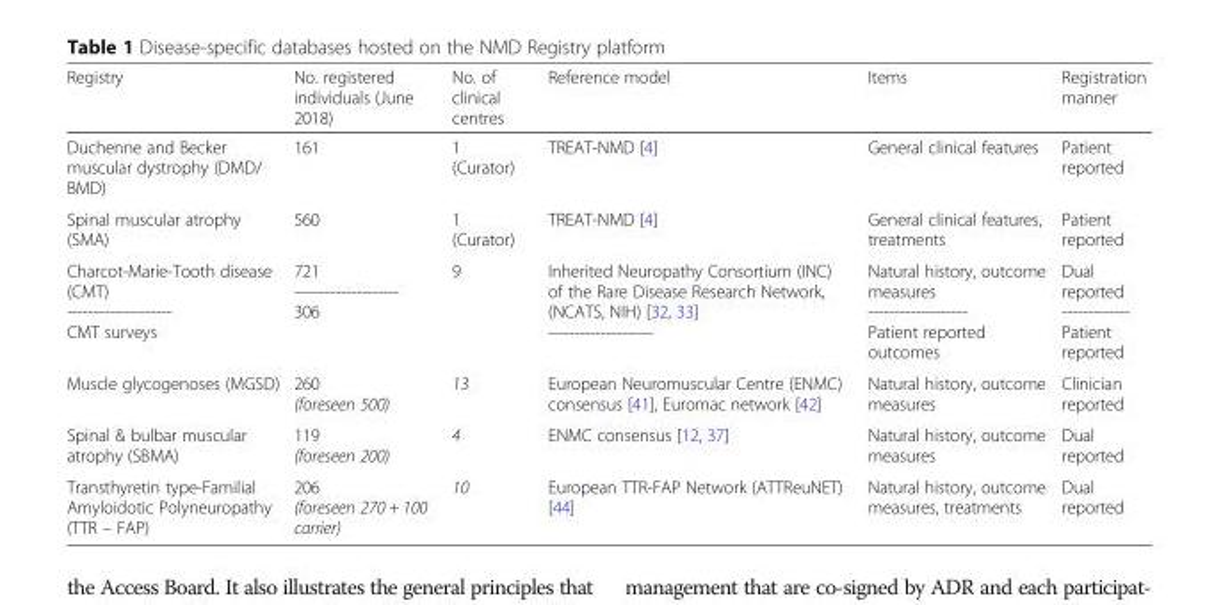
<table><thead><tr><td>Registry</td><td>No. registered individuals (June 2018)</td><td>No. of clinical centres</td><td>Reference model</td><td>Items</td><td>Registration manner</td></tr></thead><tbody><tr><td>Duchenne and Becker muscular dystrophy (DMD/ BMD)</td><td>161</td><td>1 (Curator)</td><td>TREAT-NMD [4]</td><td>General clinical features</td><td>Patient reported</td></tr><tr><td>Spinal muscular atrophy (SMA)</td><td>560</td><td>1 (Curator)</td><td>TREAT-NMD [4]</td><td>General clinical features, treatments</td><td>Patient reported</td></tr><tr><td>Charcot-Marie-Tooth disease (CMT) -------------------- CMT surveys</td><td>721 -------------------- 306</td><td>9</td><td>Inherited Neuropathy Consortium (INC) of the Rare Disease Research Network, (NCATS, NIH) [32, 33] --------------------</td><td>Natural history, outcome measures ------------------- Patient reported outcomes</td><td>Dual reported ------------- Patient reported</td></tr><tr><td>Muscle glycogenoses (MGSD)</td><td>260 (foreseen 500)</td><td>13</td><td>European Neuromuscular Centre (ENMC) consensus [41], Euromac network [42]</td><td>Natural history, outcome measures</td><td>Clinician reported</td></tr><tr><td>Spinal &amp; bulbar muscular atrophy (SBMA)</td><td>119 (foreseen 200)</td><td>4</td><td>ENMC consensus [12, 37]</td><td>Natural history, outcome measures</td><td>Dual reported</td></tr><tr><td>Transthyretin type-Familial Amyloidotic Polyneuropathy (TTR – FAP)</td><td>206 (foreseen 270 + 100 carrier)</td><td>10</td><td>European TTR-FAP Network (ATTReuNET) [44]</td><td>Natural history, outcome measures, treatments</td><td>Dual reported</td></tr></tbody></table>